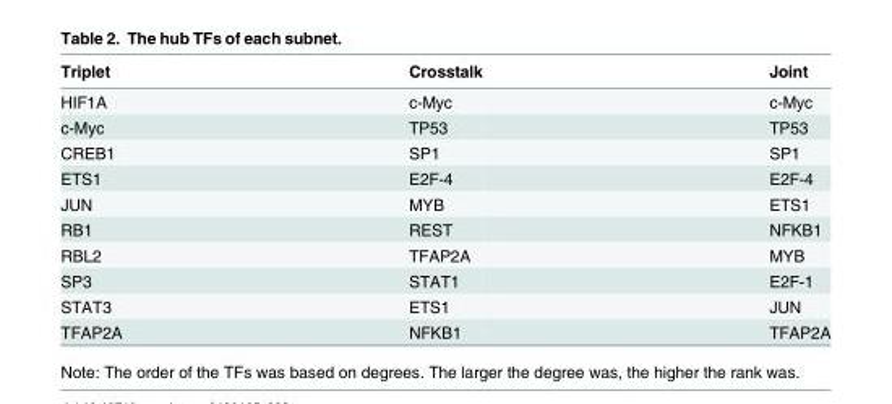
<table><thead><tr><td>Triplet</td><td>Crosstalk</td><td>Joint</td></tr></thead><tbody><tr><td>HIF1A</td><td>c-Myc</td><td>c-Myc</td></tr><tr><td>c-Myc</td><td>TP53</td><td>TP53</td></tr><tr><td>CREB1</td><td>SP1</td><td>SP1</td></tr><tr><td>ETS1</td><td>E2F-4</td><td>E2F-4</td></tr><tr><td>JUN</td><td>MYB</td><td>ETS1</td></tr><tr><td>RB1</td><td>REST</td><td>NFKB1</td></tr><tr><td>RBL2</td><td>TFAP2A</td><td>MYB</td></tr><tr><td>SP3</td><td>STAT1</td><td>E2F-1</td></tr><tr><td>STAT3</td><td>ETS1</td><td>JUN</td></tr><tr><td>TFAP2A</td><td>NFKB1</td><td>TFAP2A</td></tr></tbody></table>